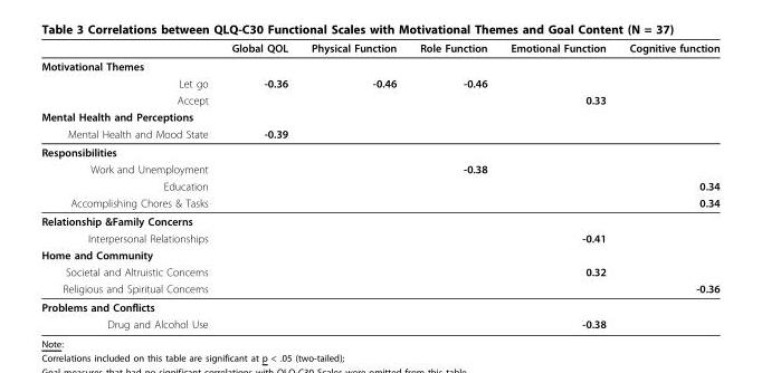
<table><thead><tr><td></td><td>Global QOL</td><td>Physical Function</td><td>Role Function</td><td>Emotional Function</td><td>Cognitive function</td></tr></thead><tbody><tr><td colspan="6">Motivational Themes</td></tr><tr><td>Let go</td><td>-0.36</td><td>-0.46</td><td>-0.46</td><td></td><td></td></tr><tr><td>Accept</td><td></td><td></td><td></td><td>0.33</td><td></td></tr><tr><td colspan="6">Mental Health and Perceptions</td></tr><tr><td>Mental Health and Mood State</td><td>-0.39</td><td></td><td></td><td></td><td></td></tr><tr><td colspan="6">Responsibilities</td></tr><tr><td>Work and Unemployment</td><td></td><td></td><td>-0.38</td><td></td><td></td></tr><tr><td>Education</td><td></td><td></td><td></td><td></td><td>0.34</td></tr><tr><td>Accomplishing Chores &amp; Tasks</td><td></td><td></td><td></td><td></td><td>0.34</td></tr><tr><td colspan="6">Relationship &amp;Family Concerns</td></tr><tr><td>Interpersonal Relationships</td><td></td><td></td><td></td><td>-0.41</td><td></td></tr><tr><td colspan="6">Home and Community</td></tr><tr><td>Societal and Altruistic Concerns</td><td></td><td></td><td></td><td>0.32</td><td></td></tr><tr><td>Religious and Spiritual Concerns</td><td></td><td></td><td></td><td></td><td>-0.36</td></tr><tr><td colspan="6">Problems and Conflicts</td></tr><tr><td>Drug and Alcohol Use</td><td></td><td></td><td></td><td>-0.38</td><td></td></tr></tbody></table>